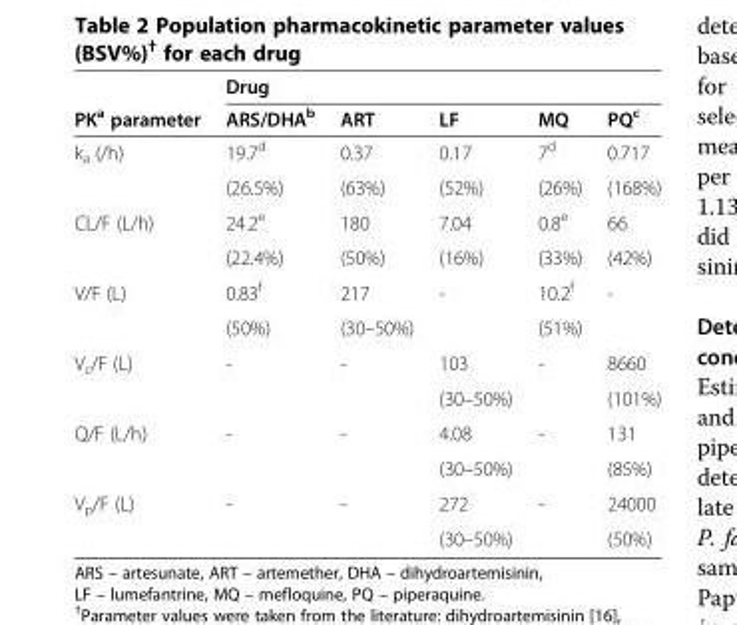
<table><thead><tr><td rowspan="2">PK<sup>a</sup> parameter</td><td colspan="5">Drug</td></tr><tr><td>ARS/DHA<sup>b</sup></td><td>ART</td><td>LF</td><td>MQ</td><td>PQ<sup>c</sup></td></tr></thead><tbody><tr><td rowspan="2">k<sub>a</sub> (/h)</td><td>19.7<sup>d</sup></td><td>0.37</td><td>0.17</td><td>7<sup>d</sup></td><td>0.717</td></tr><tr><td>(26.5%)</td><td>(63%)</td><td>(52%)</td><td>(26%)</td><td>(168%)</td></tr><tr><td rowspan="2">CL/F (L/h)</td><td>24.2<sup>e</sup></td><td>180</td><td>7.04</td><td>0.8<sup>e</sup></td><td>66</td></tr><tr><td>(22.4%)</td><td>(50%)</td><td>(16%)</td><td>(33%)</td><td>(42%)</td></tr><tr><td rowspan="2">V/F (L)</td><td>0.83<sup>f</sup></td><td>217</td><td rowspan="2">-</td><td>10.2<sup>f</sup></td><td rowspan="2">-</td></tr><tr><td>(50%)</td><td>(30–50%)</td><td>(51%)</td></tr><tr><td rowspan="2">V<sub>c</sub>/F (L)</td><td rowspan="2">-</td><td rowspan="2">-</td><td>103</td><td rowspan="2">-</td><td>8660</td></tr><tr><td>(30–50%)</td><td>(101%)</td></tr><tr><td rowspan="2">Q/F (L/h)</td><td rowspan="2">-</td><td rowspan="2">-</td><td>4.08</td><td rowspan="2">-</td><td>131</td></tr><tr><td>(30–50%)</td><td>(85%)</td></tr><tr><td rowspan="2">V<sub>p</sub>/F (L)</td><td>-</td><td>-</td><td>272</td><td>-</td><td>24000</td></tr><tr><td></td><td></td><td>(30–50%)</td><td></td><td>(50%)</td></tr></tbody></table>